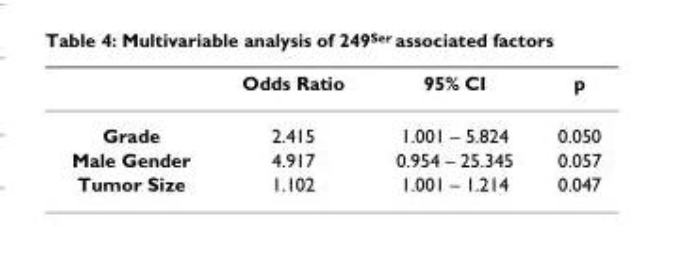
<table><thead><tr><td></td><td>Odds Ratio</td><td>95% CI</td><td>p</td></tr></thead><tbody><tr><td>Grade</td><td>2.415</td><td>1.001 – 5.824</td><td>0.050</td></tr><tr><td>Male Gender</td><td>4.917</td><td>0.954 – 25.345</td><td>0.057</td></tr><tr><td>Tumor Size</td><td>1.102</td><td>1.001 – 1.214</td><td>0.047</td></tr></tbody></table>